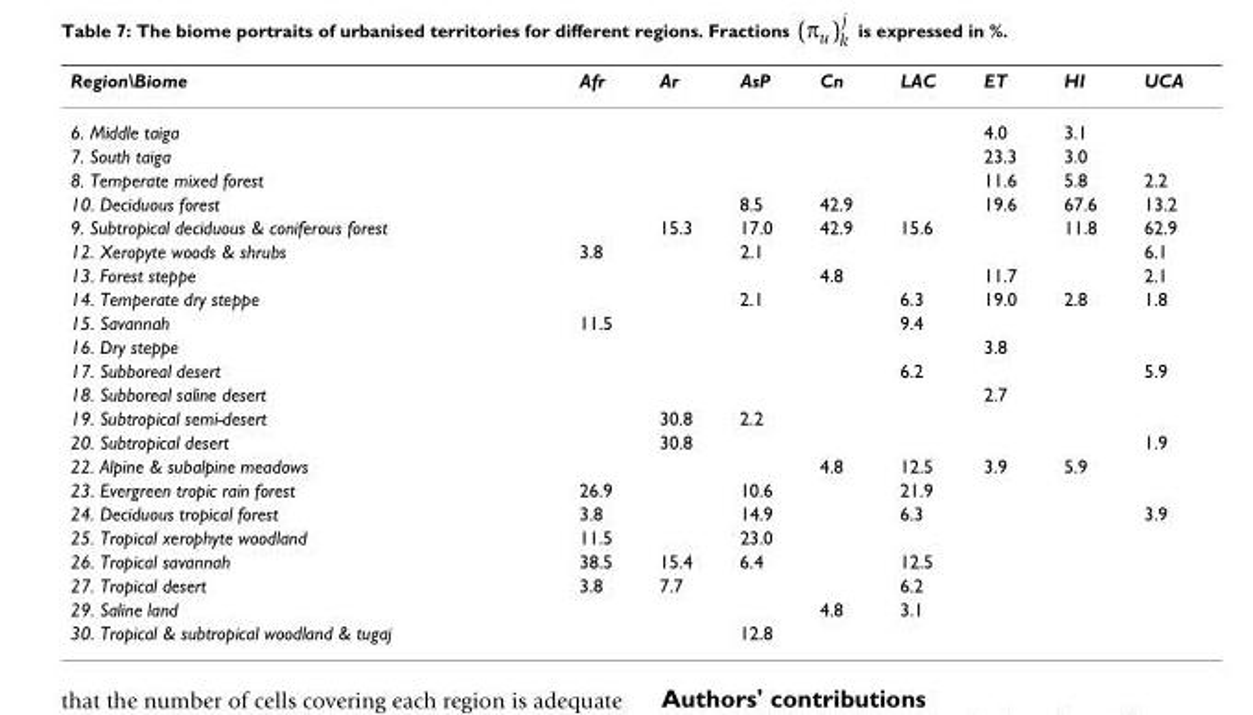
<table><thead><tr><td>Region\Biome</td><td>Afr</td><td>Ar</td><td>AsP</td><td>Cn</td><td>LAC</td><td>ET</td><td>HI</td><td>UCA</td></tr></thead><tbody><tr><td>6. Middle taiga</td><td></td><td></td><td></td><td></td><td></td><td>4.0</td><td>3.1</td><td></td></tr><tr><td>7. South taiga</td><td></td><td></td><td></td><td></td><td></td><td>23.3</td><td>3.0</td><td></td></tr><tr><td>8. Temperate mixed forest</td><td></td><td></td><td></td><td></td><td></td><td>11.6</td><td>5.8</td><td>2.2</td></tr><tr><td>10. Deciduous forest</td><td></td><td></td><td>8.5</td><td>42.9</td><td></td><td>19.6</td><td>67.6</td><td>13.2</td></tr><tr><td>9. Subtropical deciduous &amp; coniferous forest</td><td></td><td>15.3</td><td>17.0</td><td>42.9</td><td>15.6</td><td></td><td>11.8</td><td>62.9</td></tr><tr><td>12. Xeropyte woods &amp; shrubs</td><td>3.8</td><td></td><td>2.1</td><td></td><td></td><td></td><td></td><td>6.1</td></tr><tr><td>13. Forest steppe</td><td></td><td></td><td></td><td>4.8</td><td></td><td>11.7</td><td></td><td>2.1</td></tr><tr><td>14. Temperate dry steppe</td><td></td><td></td><td>2.1</td><td></td><td>6.3</td><td>19.0</td><td>2.8</td><td>1.8</td></tr><tr><td>15. Savannah</td><td>11.5</td><td></td><td></td><td></td><td>9.4</td><td></td><td></td><td></td></tr><tr><td>16. Dry steppe</td><td></td><td></td><td></td><td></td><td></td><td>3.8</td><td></td><td></td></tr><tr><td>17. Subboreal desert</td><td></td><td></td><td></td><td></td><td>6.2</td><td></td><td></td><td>5.9</td></tr><tr><td>18. Subboreal saline desert</td><td></td><td></td><td></td><td></td><td></td><td>2.7</td><td></td><td></td></tr><tr><td>19. Subtropical semi-desert</td><td></td><td>30.8</td><td>2.2</td><td></td><td></td><td></td><td></td><td></td></tr><tr><td>20. Subtropical desert</td><td></td><td>30.8</td><td></td><td></td><td></td><td></td><td></td><td>1.9</td></tr><tr><td>22. Alpine &amp; subalpine meadows</td><td></td><td></td><td></td><td>4.8</td><td>12.5</td><td>3.9</td><td>5.9</td><td></td></tr><tr><td>23. Evergreen tropic rain forest</td><td>26.9</td><td></td><td>10.6</td><td></td><td>21.9</td><td></td><td></td><td></td></tr><tr><td>24. Deciduous tropical forest</td><td>3.8</td><td></td><td>14.9</td><td></td><td>6.3</td><td></td><td></td><td>3.9</td></tr><tr><td>25. Tropical xerophyte woodland</td><td>11.5</td><td></td><td>23.0</td><td></td><td></td><td></td><td></td><td></td></tr><tr><td>26. Tropical savannah</td><td>38.5</td><td>15.4</td><td>6.4</td><td></td><td>12.5</td><td></td><td></td><td></td></tr><tr><td>27. Tropical desert</td><td>3.8</td><td>7.7</td><td></td><td></td><td>6.2</td><td></td><td></td><td></td></tr><tr><td>29. Saline land</td><td></td><td></td><td></td><td>4.8</td><td>3.1</td><td></td><td></td><td></td></tr><tr><td>30. Tropical &amp; subtropical woodland &amp; tugaj</td><td></td><td></td><td>12.8</td><td></td><td></td><td></td><td></td><td></td></tr></tbody></table>